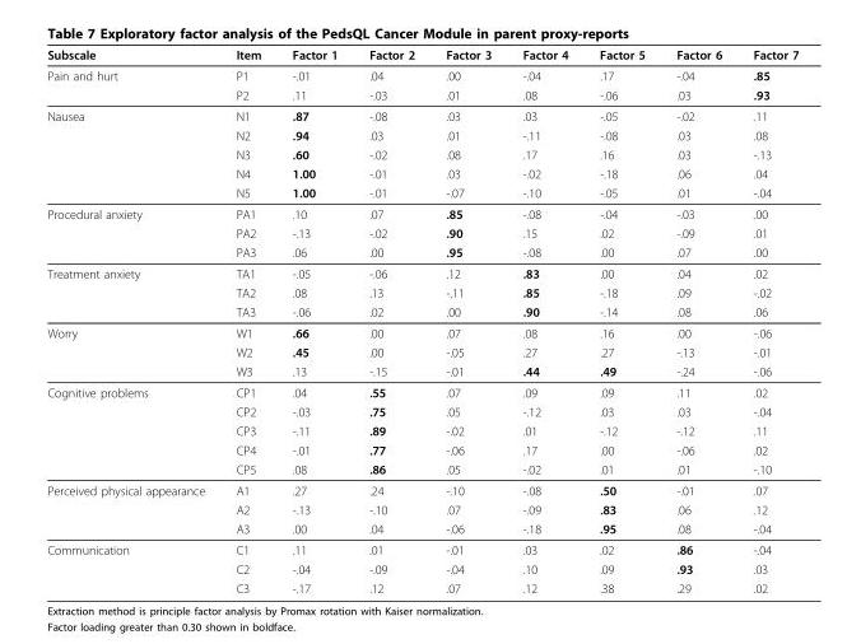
<table><thead><tr><td>Subscale</td><td>Item</td><td>Factor 1</td><td>Factor 2</td><td>Factor 3</td><td>Factor 4</td><td>Factor 5</td><td>Factor 6</td><td>Factor 7</td></tr></thead><tbody><tr><td rowspan="2">Pain and hurt</td><td>P1</td><td>-.01</td><td>.04</td><td>.00</td><td>-.04</td><td>.17</td><td>-.04</td><td>.85</td></tr><tr><td>P2</td><td>.11</td><td>-.03</td><td>.01</td><td>.08</td><td>-.06</td><td>.03</td><td>.93</td></tr><tr><td rowspan="5">Nausea</td><td>N1</td><td>.87</td><td>-.08</td><td>.03</td><td>.03</td><td>-.05</td><td>-.02</td><td>.11</td></tr><tr><td>N2</td><td>.94</td><td>.03</td><td>.01</td><td>-.11</td><td>-.08</td><td>.03</td><td>.08</td></tr><tr><td>N3</td><td>.60</td><td>-.02</td><td>.08</td><td>.17</td><td>.16</td><td>.03</td><td>-.13</td></tr><tr><td>N4</td><td>1.00</td><td>-.01</td><td>.03</td><td>-.02</td><td>-.18</td><td>.06</td><td>.04</td></tr><tr><td>N5</td><td>1.00</td><td>-.01</td><td>-.07</td><td>-.10</td><td>-.05</td><td>.01</td><td>-.04</td></tr><tr><td rowspan="3">Procedural anxiety</td><td>PA1</td><td>.10</td><td>.07</td><td>.85</td><td>-.08</td><td>-.04</td><td>-.03</td><td>.00</td></tr><tr><td>PA2</td><td>-.13</td><td>-.02</td><td>.90</td><td>.15</td><td>.02</td><td>-.09</td><td>.01</td></tr><tr><td>PA3</td><td>.06</td><td>.00</td><td>.95</td><td>-.08</td><td>.00</td><td>.07</td><td>.00</td></tr><tr><td rowspan="3">Treatment anxiety</td><td>TA1</td><td>-.05</td><td>-.06</td><td>.12</td><td>.83</td><td>.00</td><td>.04</td><td>.02</td></tr><tr><td>TA2</td><td>.08</td><td>.13</td><td>-.11</td><td>.85</td><td>-.18</td><td>.09</td><td>-.02</td></tr><tr><td>TA3</td><td>-.06</td><td>.02</td><td>.00</td><td>.90</td><td>-.14</td><td>.08</td><td>.06</td></tr><tr><td rowspan="3">Worry</td><td>W1</td><td>.66</td><td>.00</td><td>.07</td><td>.08</td><td>.16</td><td>.00</td><td>-.06</td></tr><tr><td>W2</td><td>.45</td><td>.00</td><td>-.05</td><td>.27</td><td>.27</td><td>-.13</td><td>-.01</td></tr><tr><td>W3</td><td>.13</td><td>-.15</td><td>-.01</td><td>.44</td><td>.49</td><td>-.24</td><td>-.06</td></tr><tr><td rowspan="5">Cognitive problems</td><td>CP1</td><td>.04</td><td>.55</td><td>.07</td><td>.09</td><td>.09</td><td>.11</td><td>.02</td></tr><tr><td>CP2</td><td>-.03</td><td>.75</td><td>.05</td><td>-.12</td><td>.03</td><td>.03</td><td>-.04</td></tr><tr><td>CP3</td><td>-.11</td><td>.89</td><td>-.02</td><td>.01</td><td>-.12</td><td>-.12</td><td>.11</td></tr><tr><td>CP4</td><td>-.01</td><td>.77</td><td>-.06</td><td>.17</td><td>.00</td><td>-.06</td><td>.02</td></tr><tr><td>CP5</td><td>.08</td><td>.86</td><td>.05</td><td>-.02</td><td>.01</td><td>.01</td><td>-.10</td></tr><tr><td rowspan="3">Perceived physical appearance</td><td>A1</td><td>.27</td><td>.24</td><td>-.10</td><td>-.08</td><td>.50</td><td>-.01</td><td>.07</td></tr><tr><td>A2</td><td>-.13</td><td>-.10</td><td>.07</td><td>-.09</td><td>.83</td><td>.06</td><td>.12</td></tr><tr><td>A3</td><td>.00</td><td>.04</td><td>-.06</td><td>-.18</td><td>.95</td><td>.08</td><td>-.04</td></tr><tr><td rowspan="3">Communication</td><td>C1</td><td>.11</td><td>.01</td><td>-.01</td><td>.03</td><td>.02</td><td>.86</td><td>-.04</td></tr><tr><td>C2</td><td>-.04</td><td>-.09</td><td>-.04</td><td>.10</td><td>.09</td><td>.93</td><td>.03</td></tr><tr><td>C3</td><td>-.17</td><td>.12</td><td>.07</td><td>.12</td><td>.38</td><td>.29</td><td>.02</td></tr></tbody></table>